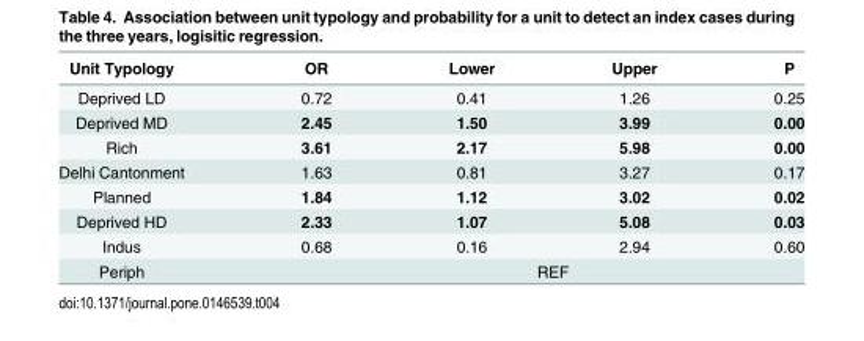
<table><thead><tr><td>Unit Typology</td><td>OR</td><td>Lower</td><td>Upper</td><td>P</td></tr></thead><tbody><tr><td>Deprived LD</td><td>0.72</td><td>0.41</td><td>1.26</td><td>0.25</td></tr><tr><td>Deprived MD</td><td>2.45</td><td>1.50</td><td>3.99</td><td>0.00</td></tr><tr><td>Rich</td><td>3.61</td><td>2.17</td><td>5.98</td><td>0.00</td></tr><tr><td>Delhi Cantonment</td><td>1.63</td><td>0.81</td><td>3.27</td><td>0.17</td></tr><tr><td>Planned</td><td>1.84</td><td>1.12</td><td>3.02</td><td>0.02</td></tr><tr><td>Deprived HD</td><td>2.33</td><td>1.07</td><td>5.08</td><td>0.03</td></tr><tr><td>Indus</td><td>0.68</td><td>0.16</td><td>2.94</td><td>0.60</td></tr><tr><td>Periph</td><td colspan="4">REF</td></tr></tbody></table>